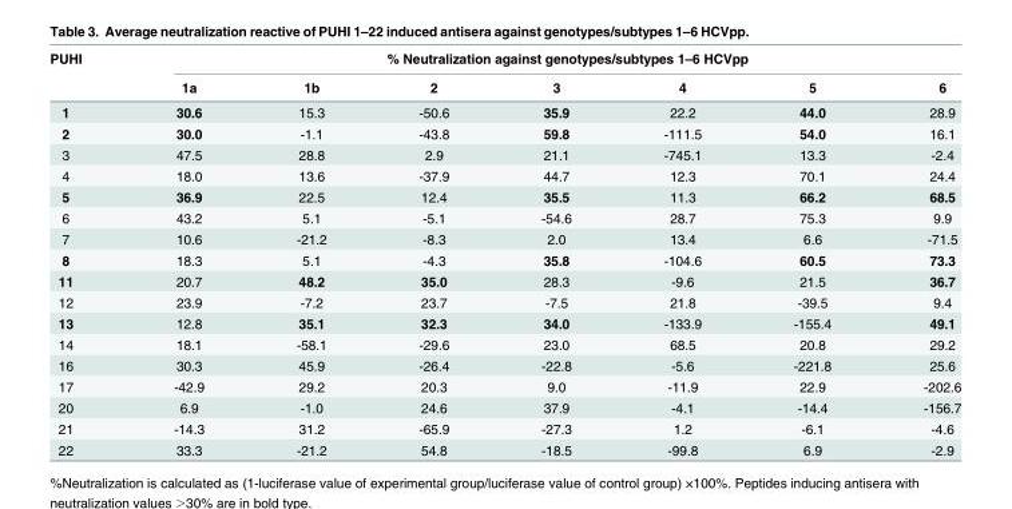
<table><thead><tr><td rowspan="2">PUHI</td><td colspan="7">% Neutralization against genotypes/subtypes 1–6 HCVpp</td></tr><tr><td>1a</td><td>1b</td><td>2</td><td>3</td><td>4</td><td>5</td><td>6</td></tr></thead><tbody><tr><td>1</td><td>30.6</td><td>15.3</td><td>-50.6</td><td>35.9</td><td>22.2</td><td>44.0</td><td>28.9</td></tr><tr><td>2</td><td>30.0</td><td>-1.1</td><td>-43.8</td><td>59.8</td><td>-111.5</td><td>54.0</td><td>16.1</td></tr><tr><td>3</td><td>47.5</td><td>28.8</td><td>2.9</td><td>21.1</td><td>-745.1</td><td>13.3</td><td>-2.4</td></tr><tr><td>4</td><td>18.0</td><td>13.6</td><td>-37.9</td><td>44.7</td><td>12.3</td><td>70.1</td><td>24.4</td></tr><tr><td>5</td><td>36.9</td><td>22.5</td><td>12.4</td><td>35.5</td><td>11.3</td><td>66.2</td><td>68.5</td></tr><tr><td>6</td><td>43.2</td><td>5.1</td><td>-5.1</td><td>-54.6</td><td>28.7</td><td>75.3</td><td>9.9</td></tr><tr><td>7</td><td>10.6</td><td>-21.2</td><td>-8.3</td><td>2.0</td><td>13.4</td><td>6.6</td><td>-71.5</td></tr><tr><td>8</td><td>18.3</td><td>5.1</td><td>-4.3</td><td>35.8</td><td>-104.6</td><td>60.5</td><td>73.3</td></tr><tr><td>11</td><td>20.7</td><td>48.2</td><td>35.0</td><td>28.3</td><td>-9.6</td><td>21.5</td><td>36.7</td></tr><tr><td>12</td><td>23.9</td><td>-7.2</td><td>23.7</td><td>-7.5</td><td>21.8</td><td>-39.5</td><td>9.4</td></tr><tr><td>13</td><td>12.8</td><td>35.1</td><td>32.3</td><td>34.0</td><td>-133.9</td><td>-155.4</td><td>49.1</td></tr><tr><td>14</td><td>18.1</td><td>-58.1</td><td>-29.6</td><td>23.0</td><td>68.5</td><td>20.8</td><td>29.2</td></tr><tr><td>16</td><td>30.3</td><td>45.9</td><td>-26.4</td><td>-22.8</td><td>-5.6</td><td>-221.8</td><td>25.6</td></tr><tr><td>17</td><td>-42.9</td><td>29.2</td><td>20.3</td><td>9.0</td><td>-11.9</td><td>22.9</td><td>-202.6</td></tr><tr><td>20</td><td>6.9</td><td>-1.0</td><td>24.6</td><td>37.9</td><td>-4.1</td><td>-14.4</td><td>-156.7</td></tr><tr><td>21</td><td>-14.3</td><td>31.2</td><td>-65.9</td><td>-27.3</td><td>1.2</td><td>-6.1</td><td>-4.6</td></tr><tr><td>22</td><td>33.3</td><td>-21.2</td><td>54.8</td><td>-18.5</td><td>-99.8</td><td>6.9</td><td>-2.9</td></tr></tbody></table>